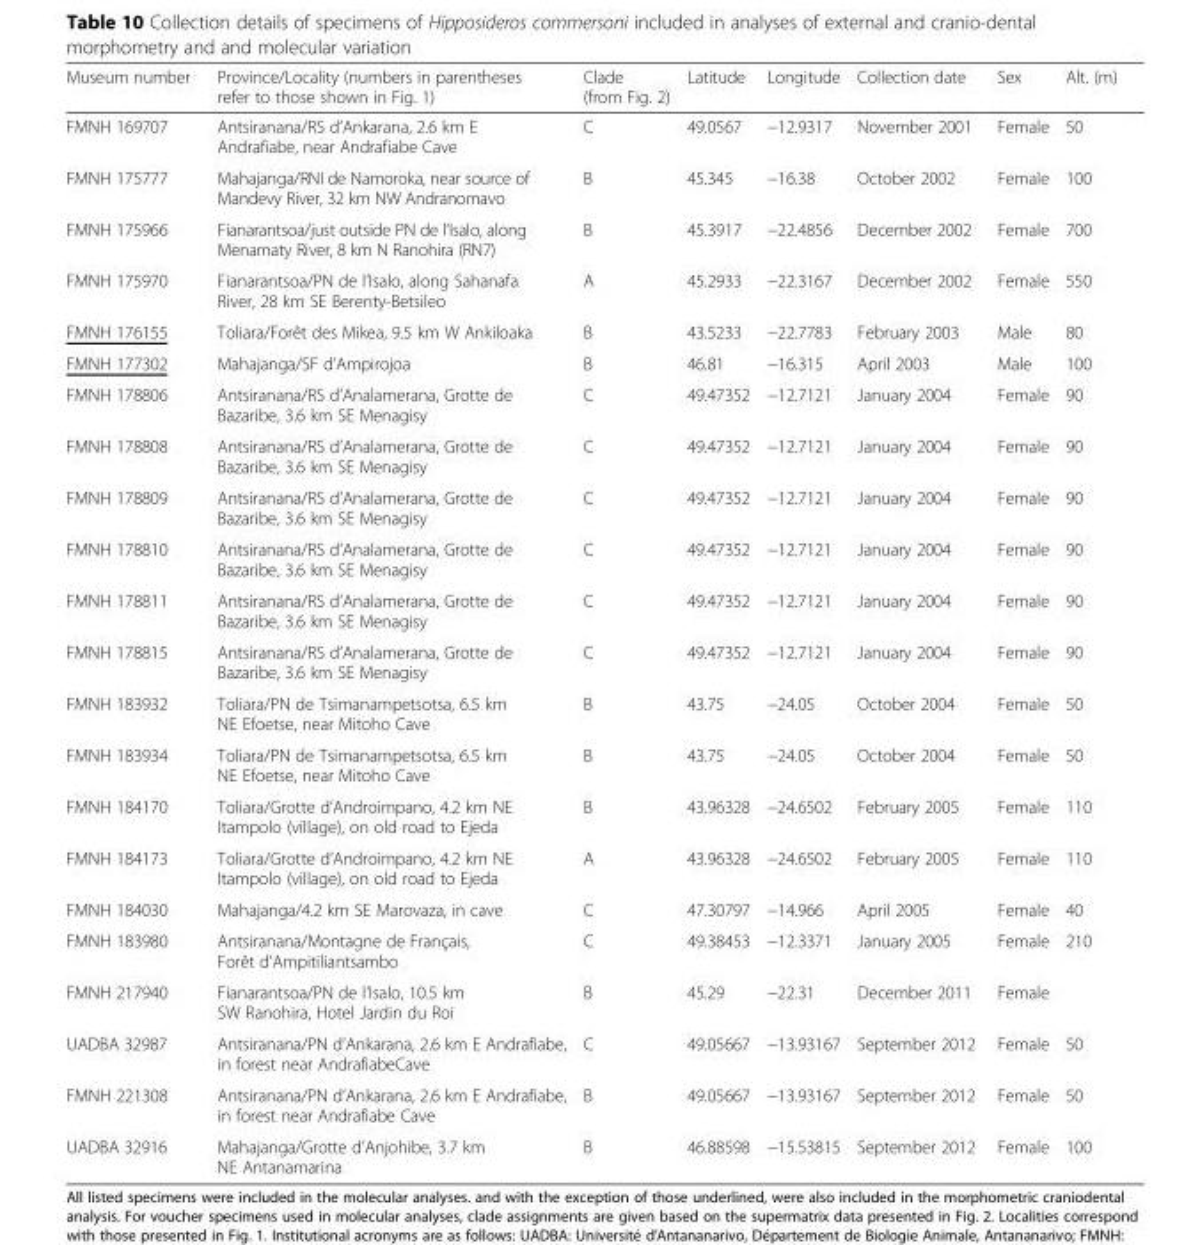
<table><thead><tr><td>Museum number</td><td>Province/Locality (numbers in parentheses refer to those shown in Fig. 1)</td><td>Clade (from Fig. 2)</td><td>Latitude</td><td>Longitude</td><td>Collection date</td><td>Sex</td><td>Alt. (m)</td></tr></thead><tbody><tr><td>FMNH 169707</td><td>Antsiranana/RS d’Ankarana, 2.6 km E Andrafiabe, near Andrafiabe Cave</td><td>C</td><td>49.0567</td><td>−12.9317</td><td>November 2001</td><td>Female</td><td>50</td></tr><tr><td>FMNH 175777</td><td>Mahajanga/RNI de Namoroka, near source of Mandevy River, 32 km NW Andranomavo</td><td>B</td><td>45.345</td><td>−16.38</td><td>October 2002</td><td>Female</td><td>100</td></tr><tr><td>FMNH 175966</td><td>Fianarantsoa/just outside PN de l’Isalo, along Menamaty River, 8 km N Ranohira (RN7)</td><td>B</td><td>45.3917</td><td>−22.4856</td><td>December 2002</td><td>Female</td><td>700</td></tr><tr><td>FMNH 175970</td><td>Fianarantsoa/PN de l’Isalo, along Sahanafa River, 28 km SE Berenty-Betsileo</td><td>A</td><td>45.2933</td><td>−22.3167</td><td>December 2002</td><td>Female</td><td>550</td></tr><tr><td>FMNH 176155</td><td>Toliara/Forêt des Mikea, 9.5 km W Ankiloaka</td><td>B</td><td>43.5233</td><td>−22.7783</td><td>February 2003</td><td>Male</td><td>80</td></tr><tr><td>FMNH 177302</td><td>Mahajanga/SF d’Ampirojoa</td><td>B</td><td>46.81</td><td>−16.315</td><td>April 2003</td><td>Male</td><td>100</td></tr><tr><td>FMNH 178806</td><td>Antsiranana/RS d’Analamerana, Grotte de Bazaribe, 3.6 km SE Menagisy</td><td>C</td><td>49.47352</td><td>−12.7121</td><td>January 2004</td><td>Female</td><td>90</td></tr><tr><td>FMNH 178808</td><td>Antsiranana/RS d’Analamerana, Grotte de Bazaribe, 3.6 km SE Menagisy</td><td>C</td><td>49.47352</td><td>−12.7121</td><td>January 2004</td><td>Female</td><td>90</td></tr><tr><td>FMNH 178809</td><td>Antsiranana/RS d’Analamerana, Grotte de Bazaribe, 3.6 km SE Menagisy</td><td>C</td><td>49.47352</td><td>−12.7121</td><td>January 2004</td><td>Female</td><td>90</td></tr><tr><td>FMNH 178810</td><td>Antsiranana/RS d’Analamerana, Grotte de Bazaribe, 3.6 km SE Menagisy</td><td>C</td><td>49.47352</td><td>−12.7121</td><td>January 2004</td><td>Female</td><td>90</td></tr><tr><td>FMNH 178811</td><td>Antsiranana/RS d’Analamerana, Grotte de Bazaribe, 3.6 km SE Menagisy</td><td>C</td><td>49.47352</td><td>−12.7121</td><td>January 2004</td><td>Female</td><td>90</td></tr><tr><td>FMNH 178815</td><td>Antsiranana/RS d’Analamerana, Grotte de Bazaribe, 3.6 km SE Menagisy</td><td>C</td><td>49.47352</td><td>−12.7121</td><td>January 2004</td><td>Female</td><td>90</td></tr><tr><td>FMNH 183932</td><td>Toliara/PN de Tsimanampetsotsa, 6.5 km NE Efoetse, near Mitoho Cave</td><td>B</td><td>43.75</td><td>−24.05</td><td>October 2004</td><td>Female</td><td>50</td></tr><tr><td>FMNH 183934</td><td>Toliara/PN de Tsimanampetsotsa, 6.5 km NE Efoetse, near Mitoho Cave</td><td>B</td><td>43.75</td><td>−24.05</td><td>October 2004</td><td>Female</td><td>50</td></tr><tr><td>FMNH 184170</td><td>Toliara/Grotte d’Androimpano, 4.2 km NE Itampolo (village), on old road to Ejeda</td><td>B</td><td>43.96328</td><td>−24.6502</td><td>February 2005</td><td>Female</td><td>110</td></tr><tr><td>FMNH 184173</td><td>Toliara/Grotte d’Androimpano, 4.2 km NE Itampolo (village), on old road to Ejeda</td><td>A</td><td>43.96328</td><td>−24.6502</td><td>February 2005</td><td>Female</td><td>110</td></tr><tr><td>FMNH 184030</td><td>Mahajanga/4.2 km SE Marovaza, in cave</td><td>C</td><td>47.30797</td><td>−14.966</td><td>April 2005</td><td>Female</td><td>40</td></tr><tr><td>FMNH 183980</td><td>Antsiranana/Montagne de Français, Forêt d’Ampitiliantsambo</td><td>C</td><td>49.38453</td><td>−12.3371</td><td>January 2005</td><td>Female</td><td>210</td></tr><tr><td>FMNH 217940</td><td>Fianarantsoa/PN de l’Isalo, 10.5 km SW Ranohira, Hotel Jardin du Roi</td><td>B</td><td>45.29</td><td>−22.31</td><td>December 2011</td><td>Female</td><td></td></tr><tr><td>UADBA 32987</td><td>Antsiranana/PN d’Ankarana, 2.6 km E Andrafiabe, in forest near AndrafiabeCave</td><td>C</td><td>49.05667</td><td>−13.93167</td><td>September 2012</td><td>Female</td><td>50</td></tr><tr><td>FMNH 221308</td><td>Antsiranana/PN d’Ankarana, 2.6 km E Andrafiabe, in forest near Andrafiabe Cave</td><td>B</td><td>49.05667</td><td>−13.93167</td><td>September 2012</td><td>Female</td><td>50</td></tr><tr><td>UADBA 32916</td><td>Mahajanga/Grotte d’Anjohibe, 3.7 km NE Antanamarina</td><td>B</td><td>46.88598</td><td>−15.53815</td><td>September 2012</td><td>Female</td><td>100</td></tr></tbody></table>